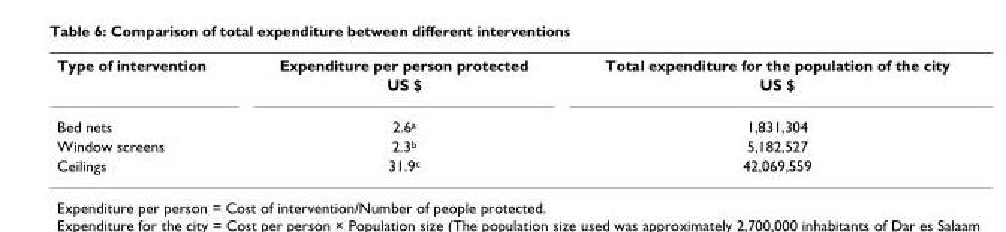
<table><tbody><tr><td rowspan="2">Type of intervention</td><td>Expenditure per person protected</td><td>Total expenditure for the population of the city</td></tr><tr><td>US $</td><td>US $</td></tr><tr><td>Bed nets</td><td>2.6<sup>a</sup></td><td>1,831,304</td></tr><tr><td>Window screens</td><td>2.3<sup>b</sup></td><td>5,182,527</td></tr><tr><td>Ceilings</td><td>31.9<sup>c</sup></td><td>42,069,559</td></tr></tbody></table>